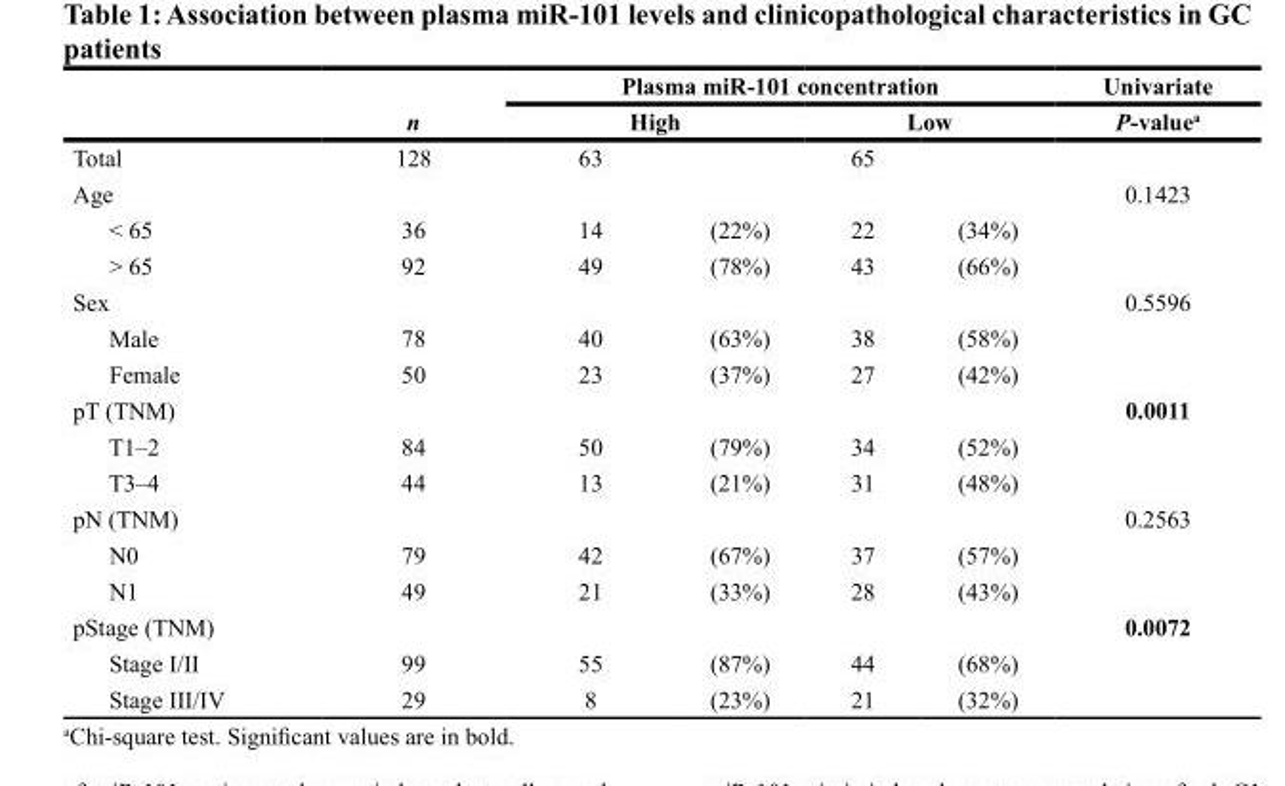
<table><thead><tr><td rowspan="3">Total</td><td rowspan="3">n 128</td><td colspan="4">Plasma miR-101 concentration</td><td rowspan="3">Univariate P-value<sup>a</sup></td></tr><tr><td colspan="2">High</td><td colspan="2">Low</td></tr><tr><td>63</td><td></td><td>65</td><td></td></tr></thead><tbody><tr><td>Age</td><td></td><td></td><td></td><td></td><td></td><td>0.1423</td></tr><tr><td>&lt; 65</td><td>36</td><td>14</td><td>(22%)</td><td>22</td><td>(34%)</td><td></td></tr><tr><td>&gt; 65</td><td>92</td><td>49</td><td>(78%)</td><td>43</td><td>(66%)</td><td></td></tr><tr><td>Sex</td><td></td><td></td><td></td><td></td><td></td><td>0.5596</td></tr><tr><td>Male</td><td>78</td><td>40</td><td>(63%)</td><td>38</td><td>(58%)</td><td></td></tr><tr><td>Female</td><td>50</td><td>23</td><td>(37%)</td><td>27</td><td>(42%)</td><td></td></tr><tr><td>pT (TNM)</td><td></td><td></td><td></td><td></td><td></td><td>0.0011</td></tr><tr><td>T1–2</td><td>84</td><td>50</td><td>(79%)</td><td>34</td><td>(52%)</td><td></td></tr><tr><td>T3–4</td><td>44</td><td>13</td><td>(21%)</td><td>31</td><td>(48%)</td><td></td></tr><tr><td>pN (TNM)</td><td></td><td></td><td></td><td></td><td></td><td>0.2563</td></tr><tr><td>N0</td><td>79</td><td>42</td><td>(67%)</td><td>37</td><td>(57%)</td><td></td></tr><tr><td>N1</td><td>49</td><td>21</td><td>(33%)</td><td>28</td><td>(43%)</td><td></td></tr><tr><td>pStage (TNM)</td><td></td><td></td><td></td><td></td><td></td><td>0.0072</td></tr><tr><td>Stage I/II</td><td>99</td><td>55</td><td>(87%)</td><td>44</td><td>(68%)</td><td></td></tr><tr><td>Stage III/IV</td><td>29</td><td>8</td><td>(23%)</td><td>21</td><td>(32%)</td><td></td></tr></tbody></table>